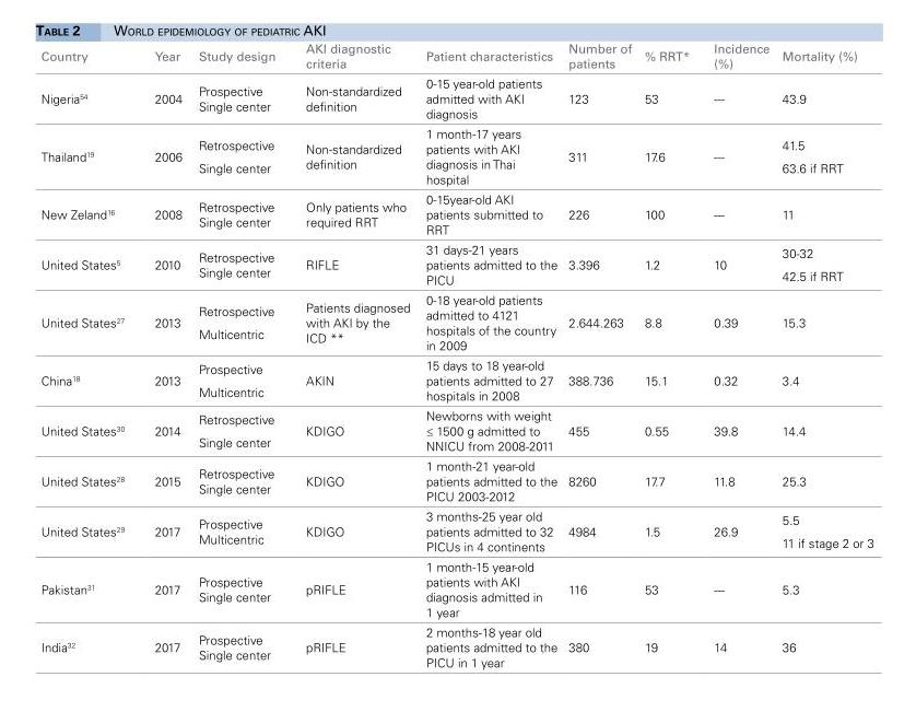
<table><thead><tr><td>Country</td><td>Year</td><td>Study design</td><td>AKI diagnostic criteria</td><td>Patient characteristics</td><td>Number of patients</td><td>% RRT*</td><td>Incidence (%)</td><td>Mortality (%)</td></tr></thead><tbody><tr><td>Nigeria<sup>54</sup></td><td>2004</td><td>Prospective Single center</td><td>Non-standardized definition</td><td>0-15 year-old patients admitted with AKI diagnosis</td><td>123</td><td>53</td><td>---</td><td>43.9</td></tr><tr><td>Thailand<sup>19</sup></td><td>2006</td><td>Retrospective Single center</td><td>Non-standardized definition</td><td>1 month-17 years patients with AKI diagnosis in Thai hospital</td><td>311</td><td>17.6</td><td>---</td><td>41.5 63.6 if RRT</td></tr><tr><td>New Zeland<sup>16</sup></td><td>2008</td><td>Retrospective Single center</td><td>Only patients who required RRT</td><td>0-15year-old AKI patients submitted to RRT</td><td>226</td><td>100</td><td>---</td><td>11</td></tr><tr><td>United States<sup>5</sup></td><td>2010</td><td>Retrospective Single center</td><td>RIFLE</td><td>31 days-21 years patients admitted to the PICU</td><td>3.396</td><td>1.2</td><td>10</td><td>30-32 42.5 if RRT</td></tr><tr><td>United States<sup>27</sup></td><td>2013</td><td>Retrospective Multicentric</td><td>Patients diagnosed with AKI by the ICD **</td><td>0-18 year-old patients admitted to 4121 hospitals of the country in 2009</td><td>2.644.263</td><td>8.8</td><td>0.39</td><td>15.3</td></tr><tr><td>China<sup>18</sup></td><td>2013</td><td>Prospective Multicentric</td><td>AKIN</td><td>15 days to 18 year-old patients admitted to 27 hospitals in 2008</td><td>388.736</td><td>15.1</td><td>0.32</td><td>3.4</td></tr><tr><td>United States<sup>30</sup></td><td>2014</td><td>Retrospective Single center</td><td>KDIGO</td><td>Newborns with weight ≤ 1500 g admitted to NNICU from 2008-2011</td><td>455</td><td>0.55</td><td>39.8</td><td>14.4</td></tr><tr><td>United States<sup>28</sup></td><td>2015</td><td>Retrospective Single center</td><td>KDIGO</td><td>1 month-21 year-old patients admitted to the PICU 2003-2012</td><td>8260</td><td>17.7</td><td>11.8</td><td>25.3</td></tr><tr><td>United States<sup>29</sup></td><td>2017</td><td>Prospective Multicentric</td><td>KDIGO</td><td>3 months-25 year old patients admitted to 32 PICUs in 4 continents</td><td>4984</td><td>1.5</td><td>26.9</td><td>5.5 11 if stage 2 or 3</td></tr><tr><td>Pakistan<sup>31</sup></td><td>2017</td><td>Prospective Single center</td><td>pRIFLE</td><td>1 month-15 year-old patients with AKI diagnosis admitted in 1 year</td><td>116</td><td>53</td><td>---</td><td>5.3</td></tr><tr><td>India<sup>32</sup></td><td>2017</td><td>Prospective Single center</td><td>pRIFLE</td><td>2 months-18 year old patients admitted to the PICU in 1 year</td><td>380</td><td>19</td><td>14</td><td>36</td></tr></tbody></table>